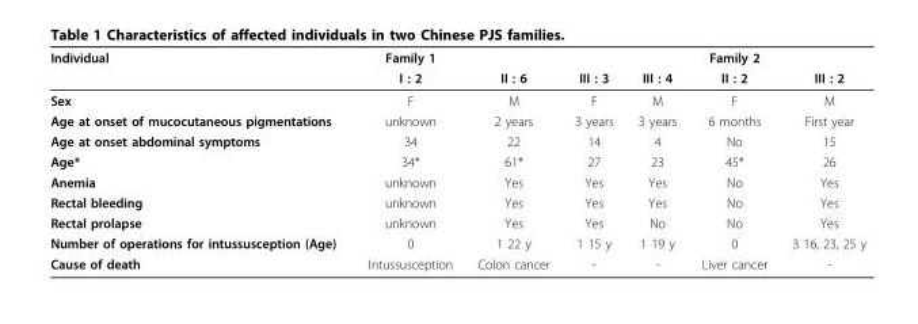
<table><thead><tr><td rowspan="2">Individual</td><td rowspan="2">Family 1 I : 2</td><td rowspan="2">II : 6</td><td rowspan="2">III : 3</td><td rowspan="2">III : 4</td><td rowspan="2">Family 2 II : 2</td><td rowspan="2">III : 2</td></tr><tr></tr></thead><tbody><tr><td>Sex</td><td>F</td><td>M</td><td>F</td><td>M</td><td>F</td><td>M</td></tr><tr><td>Age at onset of mucocutaneous pigmentations</td><td>unknown</td><td>2 years</td><td>3 years</td><td>3 years</td><td>6 months</td><td>First year</td></tr><tr><td>Age at onset abdominal symptoms</td><td>34</td><td>22</td><td>14</td><td>4</td><td>No</td><td>15</td></tr><tr><td>Age*</td><td>34*</td><td>61*</td><td>27</td><td>23</td><td>45*</td><td>26</td></tr><tr><td>Anemia</td><td>unknown</td><td>Yes</td><td>Yes</td><td>Yes</td><td>No</td><td>Yes</td></tr><tr><td>Rectal bleeding</td><td>unknown</td><td>Yes</td><td>Yes</td><td>Yes</td><td>No</td><td>Yes</td></tr><tr><td>Rectal prolapse</td><td>unknown</td><td>Yes</td><td>Yes</td><td>No</td><td>No</td><td>Yes</td></tr><tr><td>Number of operations for intussusception (Age)</td><td>0</td><td>1 22 y</td><td>1 15 y</td><td>1 19 y</td><td>0</td><td>3 16, 23, 25 y</td></tr><tr><td>Cause of death</td><td>Intussusception</td><td>Colon cancer</td><td>-</td><td>-</td><td>Liver cancer</td><td>-</td></tr></tbody></table>